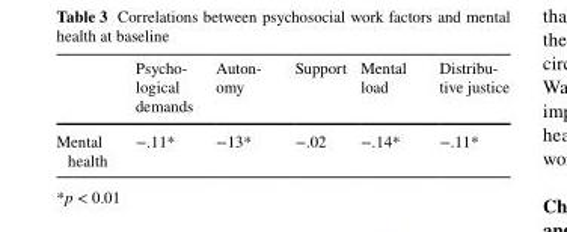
<table><thead><tr><td></td><td>Psycho- logical demands</td><td>Auton- omy</td><td>Support</td><td>Mental load</td><td>Distribu- tive justice</td></tr></thead><tbody><tr><td>Mental health</td><td>−.11*</td><td>−13*</td><td>−.02</td><td>−.14*</td><td>−.11*</td></tr></tbody></table>